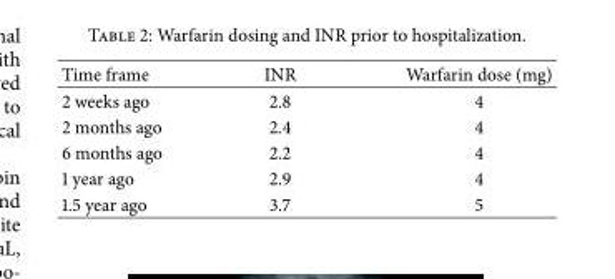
<table><thead><tr><td>Time frame</td><td>INR</td><td>Warfarin dose (mg)</td></tr></thead><tbody><tr><td>2 weeks ago</td><td>2.8</td><td>4</td></tr><tr><td>2 months ago</td><td>2.4</td><td>4</td></tr><tr><td>6 months ago</td><td>2.2</td><td>4</td></tr><tr><td>1 year ago</td><td>2.9</td><td>4</td></tr><tr><td>1.5 year ago</td><td>3.7</td><td>5</td></tr></tbody></table>